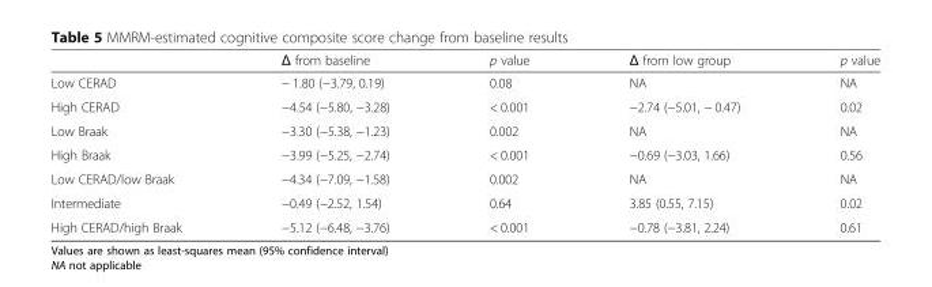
<table><thead><tr><td></td><td>Δ from baseline</td><td>p value</td><td>Δ from low group</td><td>p value</td></tr></thead><tbody><tr><td>Low CERAD</td><td>− 1.80 (−3.79, 0.19)</td><td>0.08</td><td>NA</td><td>NA</td></tr><tr><td>High CERAD</td><td>−4.54 (−5.80, −3.28)</td><td>&lt; 0.001</td><td>−2.74 (−5.01, − 0.47)</td><td>0.02</td></tr><tr><td>Low Braak</td><td>−3.30 (−5.38, −1.23)</td><td>0.002</td><td>NA</td><td>NA</td></tr><tr><td>High Braak</td><td>−3.99 (−5.25, −2.74)</td><td>&lt; 0.001</td><td>−0.69 (−3.03, 1.66)</td><td>0.56</td></tr><tr><td>Low CERAD/low Braak</td><td>−4.34 (−7.09, −1.58)</td><td>0.002</td><td>NA</td><td>NA</td></tr><tr><td>Intermediate</td><td>−0.49 (−2.52, 1.54)</td><td>0.64</td><td>3.85 (0.55, 7.15)</td><td>0.02</td></tr><tr><td>High CERAD/high Braak</td><td>−5.12 (−6.48, −3.76)</td><td>&lt; 0.001</td><td>−0.78 (−3.81, 2.24)</td><td>0.61</td></tr></tbody></table>